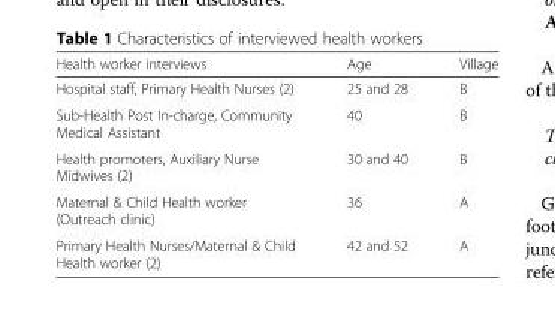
<table><thead><tr><td>Health worker interviews</td><td>Age</td><td>Village</td></tr></thead><tbody><tr><td>Hospital staff, Primary Health Nurses (2)</td><td>25 and 28</td><td>B</td></tr><tr><td>Sub-Health Post In-charge, Community Medical Assistant</td><td>40</td><td>B</td></tr><tr><td>Health promoters, Auxiliary Nurse Midwives (2)</td><td>30 and 40</td><td>B</td></tr><tr><td>Maternal &amp; Child Health worker (Outreach clinic)</td><td>36</td><td>A</td></tr><tr><td>Primary Health Nurses/Maternal &amp; Child Health worker (2)</td><td>42 and 52</td><td>A</td></tr></tbody></table>